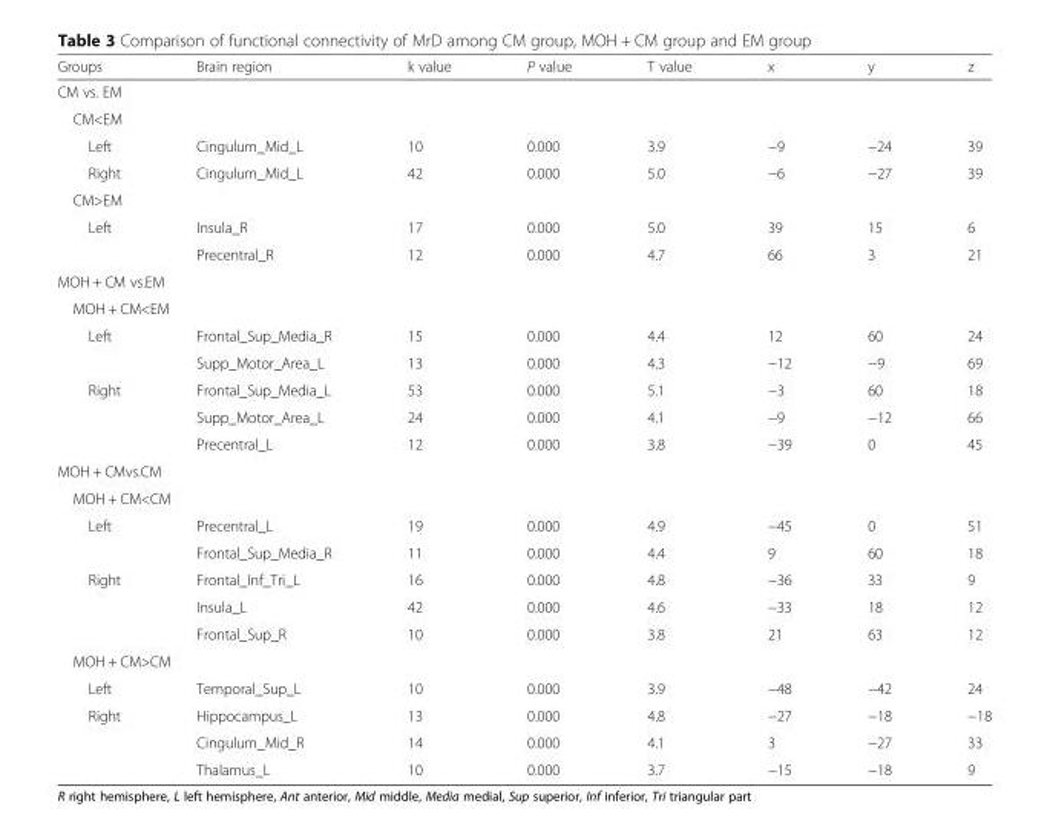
<table><thead><tr><td>Groups</td><td>Brain region</td><td>k value</td><td>P value</td><td>T value</td><td>x</td><td>y</td><td>z</td></tr></thead><tbody><tr><td colspan="8">CM vs. EM</td></tr><tr><td colspan="8">CM&lt;EM</td></tr><tr><td>Left</td><td>Cingulum_Mid_L</td><td>10</td><td>0.000</td><td>3.9</td><td>−9</td><td>−24</td><td>39</td></tr><tr><td>Right</td><td>Cingulum_Mid_L</td><td>42</td><td>0.000</td><td>5.0</td><td>−6</td><td>−27</td><td>39</td></tr><tr><td colspan="8">CM&gt;EM</td></tr><tr><td rowspan="2">Left</td><td>Insula_R</td><td>17</td><td>0.000</td><td>5.0</td><td>39</td><td>15</td><td>6</td></tr><tr><td>Precentral_R</td><td>12</td><td>0.000</td><td>4.7</td><td>66</td><td>3</td><td>21</td></tr><tr><td colspan="8">MOH + CM vs.EM</td></tr><tr><td colspan="8">MOH + CM&lt;EM</td></tr><tr><td rowspan="2">Left</td><td>Frontal_Sup_Media_R</td><td>15</td><td>0.000</td><td>4.4</td><td>12</td><td>60</td><td>24</td></tr><tr><td>Supp_Motor_Area_L</td><td>13</td><td>0.000</td><td>4.3</td><td>−12</td><td>−9</td><td>69</td></tr><tr><td rowspan="3">Right</td><td>Frontal_Sup_Media_L</td><td>53</td><td>0.000</td><td>5.1</td><td>−3</td><td>60</td><td>18</td></tr><tr><td>Supp_Motor_Area_L</td><td>24</td><td>0.000</td><td>4.1</td><td>−9</td><td>−12</td><td>66</td></tr><tr><td>Precentral_L</td><td>12</td><td>0.000</td><td>3.8</td><td>−39</td><td>0</td><td>45</td></tr><tr><td colspan="8">MOH + CMvs.CM</td></tr><tr><td colspan="8">MOH + CM&lt;CM</td></tr><tr><td rowspan="2">Left</td><td>Precentral_L</td><td>19</td><td>0.000</td><td>4.9</td><td>−45</td><td>0</td><td>51</td></tr><tr><td>Frontal_Sup_Media_R</td><td>11</td><td>0.000</td><td>4.4</td><td>9</td><td>60</td><td>18</td></tr><tr><td rowspan="3">Right</td><td>Frontal_Inf_Tri_L</td><td>16</td><td>0.000</td><td>4.8</td><td>−36</td><td>33</td><td>9</td></tr><tr><td>Insula_L</td><td>42</td><td>0.000</td><td>4.6</td><td>−33</td><td>18</td><td>12</td></tr><tr><td>Frontal_Sup_R</td><td>10</td><td>0.000</td><td>3.8</td><td>21</td><td>63</td><td>12</td></tr><tr><td colspan="8">MOH + CM&gt;CM</td></tr><tr><td>Left</td><td>Temporal_Sup_L</td><td>10</td><td>0.000</td><td>3.9</td><td>−48</td><td>−42</td><td>24</td></tr><tr><td rowspan="3">Right</td><td>Hippocampus_L</td><td>13</td><td>0.000</td><td>4.8</td><td>−27</td><td>−18</td><td>−18</td></tr><tr><td>Cingulum_Mid_R</td><td>14</td><td>0.000</td><td>4.1</td><td>3</td><td>−27</td><td>33</td></tr><tr><td>Thalamus_L</td><td>10</td><td>0.000</td><td>3.7</td><td>−15</td><td>−18</td><td>9</td></tr></tbody></table>